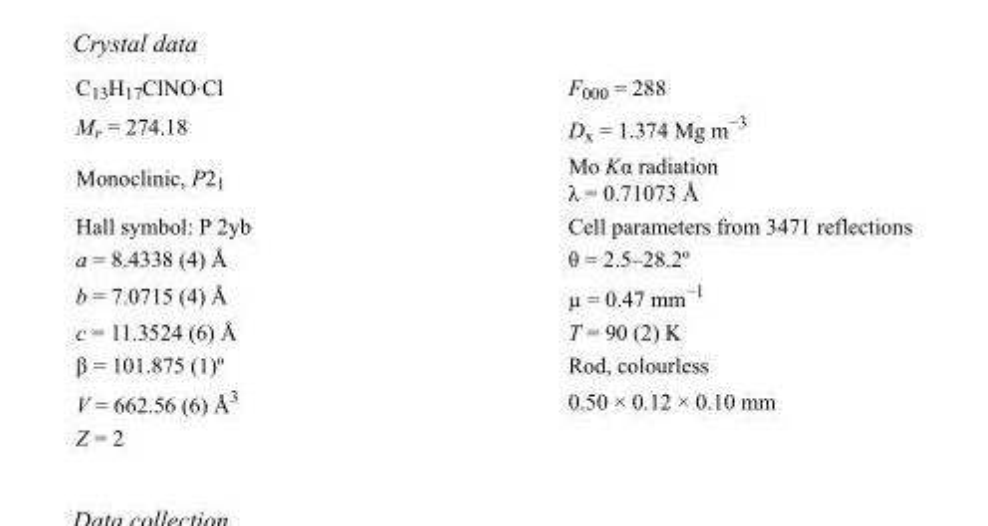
<table><tbody><tr><td>C<sub>13</sub>H<sub>17</sub>ClNO·Cl</td><td>F<sub>000</sub> = 288</td></tr><tr><td>M<sub>r</sub> = 274.18</td><td>D<sub>x</sub> = 1.374 Mg m<sup>−3</sup></td></tr><tr><td>Monoclinic, P2<sub>1</sub></td><td>Mo Kα radiation λ = 0.71073 Å</td></tr><tr><td>Hall symbol: P 2yb</td><td>Cell parameters from 3471 reflections</td></tr><tr><td>a = 8.4338 (4) Å</td><td>θ = 2.5–28.2º</td></tr><tr><td>b = 7.0715 (4) Å</td><td>µ = 0.47 mm<sup>−1</sup></td></tr><tr><td>c = 11.3524 (6) Å</td><td>T = 90 (2) K</td></tr><tr><td>β = 101.875 (1)º</td><td>Rod, colourless</td></tr><tr><td>V = 662.56 (6) Å<sup>3</sup></td><td>0.50 × 0.12 × 0.10 mm</td></tr><tr><td>Z = 2</td><td></td></tr></tbody></table>